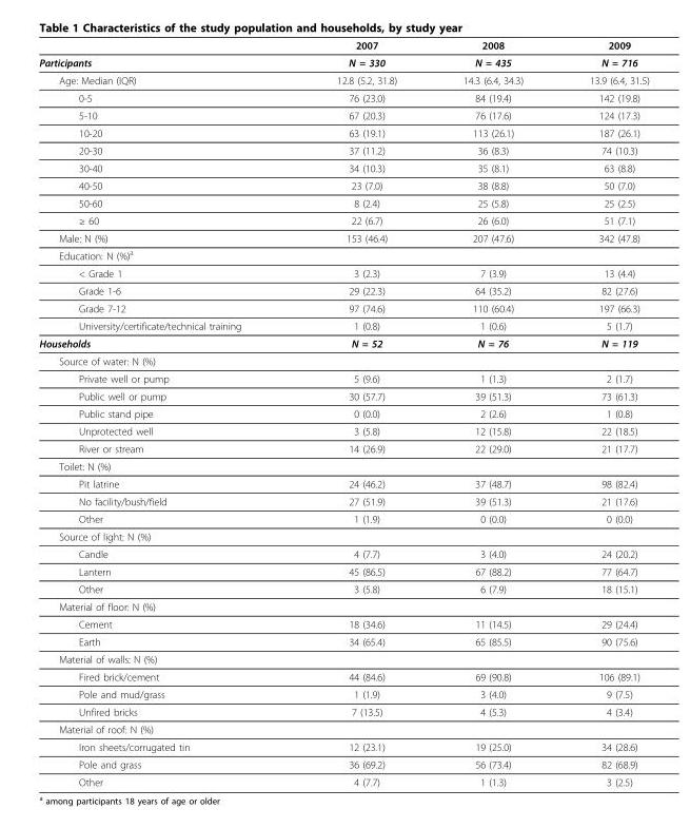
<table><thead><tr><td></td><td>2007</td><td>2008</td><td>2009</td></tr></thead><tbody><tr><td>Participants</td><td>N = 330</td><td>N = 435</td><td>N = 716</td></tr><tr><td>Age: Median (IQR)</td><td>12.8 (5.2, 31.8)</td><td>14.3 (6.4, 34.3)</td><td>13.9 (6.4, 31.5)</td></tr><tr><td>0-5</td><td>76 (23.0)</td><td>84 (19.4)</td><td>142 (19.8)</td></tr><tr><td>5-10</td><td>67 (20.3)</td><td>76 (17.6)</td><td>124 (17.3)</td></tr><tr><td>10-20</td><td>63 (19.1)</td><td>113 (26.1)</td><td>187 (26.1)</td></tr><tr><td>20-30</td><td>37 (11.2)</td><td>36 (8.3)</td><td>74 (10.3)</td></tr><tr><td>30-40</td><td>34 (10.3)</td><td>35 (8.1)</td><td>63 (8.8)</td></tr><tr><td>40-50</td><td>23 (7.0)</td><td>38 (8.8)</td><td>50 (7.0)</td></tr><tr><td>50-60</td><td>8 (2.4)</td><td>25 (5.8)</td><td>25 (2.5)</td></tr><tr><td>≥ 60</td><td>22 (6.7)</td><td>26 (6.0)</td><td>51 (7.1)</td></tr><tr><td>Male: N (%)</td><td>153 (46.4)</td><td>207 (47.6)</td><td>342 (47.8)</td></tr><tr><td colspan="4">Education: N (%)<sup>a</sup></td></tr><tr><td>&lt; Grade 1</td><td>3 (2.3)</td><td>7 (3.9)</td><td>13 (4.4)</td></tr><tr><td>Grade 1-6</td><td>29 (22.3)</td><td>64 (35.2)</td><td>82 (27.6)</td></tr><tr><td>Grade 7-12</td><td>97 (74.6)</td><td>110 (60.4)</td><td>197 (66.3)</td></tr><tr><td>University/certificate/technical training</td><td>1 (0.8)</td><td>1 (0.6)</td><td>5 (1.7)</td></tr><tr><td>Households</td><td>N = 52</td><td>N = 76</td><td>N = 119</td></tr><tr><td colspan="4">Source of water: N (%)</td></tr><tr><td>Private well or pump</td><td>5 (9.6)</td><td>1 (1.3)</td><td>2 (1.7)</td></tr><tr><td>Public well or pump</td><td>30 (57.7)</td><td>39 (51.3)</td><td>73 (61.3)</td></tr><tr><td>Public stand pipe</td><td>0 (0.0)</td><td>2 (2.6)</td><td>1 (0.8)</td></tr><tr><td>Unprotected well</td><td>3 (5.8)</td><td>12 (15.8)</td><td>22 (18.5)</td></tr><tr><td>River or stream</td><td>14 (26.9)</td><td>22 (29.0)</td><td>21 (17.7)</td></tr><tr><td colspan="4">Toilet: N (%)</td></tr><tr><td>Pit latrine</td><td>24 (46.2)</td><td>37 (48.7)</td><td>98 (82.4)</td></tr><tr><td>No facility/bush/field</td><td>27 (51.9)</td><td>39 (51.3)</td><td>21 (17.6)</td></tr><tr><td>Other</td><td>1 (1.9)</td><td>0 (0.0)</td><td>0 (0.0)</td></tr><tr><td colspan="4">Source of light: N (%)</td></tr><tr><td>Candle</td><td>4 (7.7)</td><td>3 (4.0)</td><td>24 (20.2)</td></tr><tr><td>Lantern</td><td>45 (86.5)</td><td>67 (88.2)</td><td>77 (64.7)</td></tr><tr><td>Other</td><td>3 (5.8)</td><td>6 (7.9)</td><td>18 (15.1)</td></tr><tr><td colspan="4">Material of floor: N (%)</td></tr><tr><td>Cement</td><td>18 (34.6)</td><td>11 (14.5)</td><td>29 (24.4)</td></tr><tr><td>Earth</td><td>34 (65.4)</td><td>65 (85.5)</td><td>90 (75.6)</td></tr><tr><td colspan="4">Material of walls: N (%)</td></tr><tr><td>Fired brick/cement</td><td>44 (84.6)</td><td>69 (90.8)</td><td>106 (89.1)</td></tr><tr><td>Pole and mud/grass</td><td>1 (1.9)</td><td>3 (4.0)</td><td>9 (7.5)</td></tr><tr><td>Unfired bricks</td><td>7 (13.5)</td><td>4 (5.3)</td><td>4 (3.4)</td></tr><tr><td colspan="4">Material of roof: N (%)</td></tr><tr><td>Iron sheets/corrugated tin</td><td>12 (23.1)</td><td>19 (25.0)</td><td>34 (28.6)</td></tr><tr><td>Pole and grass</td><td>36 (69.2)</td><td>56 (73.4)</td><td>82 (68.9)</td></tr><tr><td>Other</td><td>4 (7.7)</td><td>1 (1.3)</td><td>3 (2.5)</td></tr></tbody></table>